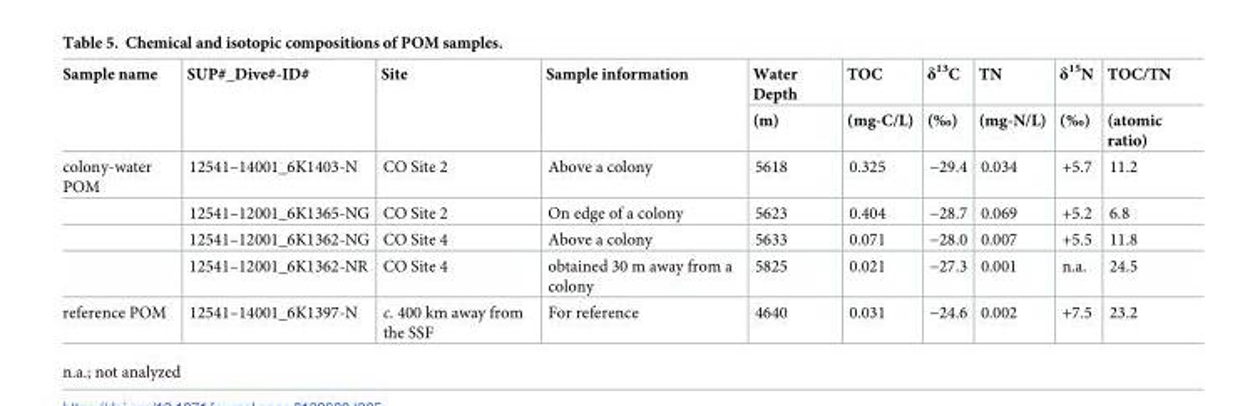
<table><thead><tr><td rowspan="2">Sample name</td><td rowspan="2">SUP#_Dive#-ID#</td><td rowspan="2">Site</td><td rowspan="2">Sample information</td><td rowspan="2">Water Depth (m)</td><td rowspan="2">TOC (mg-C/L)</td><td rowspan="2">δ<sup>13</sup>C (‰)</td><td rowspan="2">TN (mg-N/L)</td><td rowspan="2">δ<sup>15</sup>N (‰)</td><td rowspan="2">TOC/TN (atomic ratio)</td></tr><tr></tr></thead><tbody><tr><td rowspan="4">colony-water POM</td><td>12541–14001_6K1403-N</td><td>CO Site 2</td><td>Above a colony</td><td>5618</td><td>0.325</td><td>−29.4</td><td>0.034</td><td>+5.7</td><td>11.2</td></tr><tr><td>12541–12001_6K1365-NG</td><td>CO Site 2</td><td>On edge of a colony</td><td>5623</td><td>0.404</td><td>−28.7</td><td>0.069</td><td>+5.2</td><td>6.8</td></tr><tr><td>12541–12001_6K1362-NG</td><td>CO Site 4</td><td>Above a colony</td><td>5633</td><td>0.071</td><td>−28.0</td><td>0.007</td><td>+5.5</td><td>11.8</td></tr><tr><td>12541–12001_6K1362-NR</td><td>CO Site 4</td><td>obtained 30 m away from a colony</td><td>5825</td><td>0.021</td><td>−27.3</td><td>0.001</td><td>n.a.</td><td>24.5</td></tr><tr><td>reference POM</td><td>12541–14001_6K1397-N</td><td>c. 400 km away from the SSF</td><td>For reference</td><td>4640</td><td>0.031</td><td>−24.6</td><td>0.002</td><td>+7.5</td><td>23.2</td></tr></tbody></table>